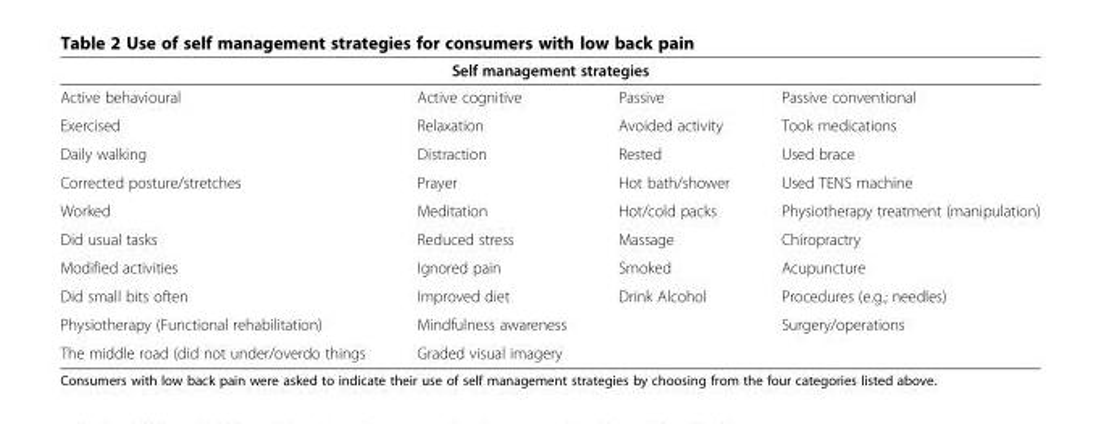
<table><thead><tr><td colspan="4">Self management strategies</td></tr><tr><td>Active behavioural</td><td>Active cognitive</td><td>Passive</td><td>Passive conventional</td></tr></thead><tbody><tr><td>Exercised</td><td>Relaxation</td><td>Avoided activity</td><td>Took medications</td></tr><tr><td>Daily walking</td><td>Distraction</td><td>Rested</td><td>Used brace</td></tr><tr><td>Corrected posture/stretches</td><td>Prayer</td><td>Hot bath/shower</td><td>Used TENS machine</td></tr><tr><td>Worked</td><td>Meditation</td><td>Hot/cold packs</td><td>Physiotherapy treatment (manipulation)</td></tr><tr><td>Did usual tasks</td><td>Reduced stress</td><td>Massage</td><td>Chiropractry</td></tr><tr><td>Modified activities</td><td>Ignored pain</td><td>Smoked</td><td>Acupuncture</td></tr><tr><td>Did small bits often</td><td>Improved diet</td><td>Drink Alcohol</td><td>Procedures (e.g.; needles)</td></tr><tr><td>Physiotherapy (Functional rehabilitation)</td><td>Mindfulness awareness</td><td></td><td>Surgery/operations</td></tr><tr><td>The middle road (did not under/overdo things</td><td>Graded visual imagery</td><td></td><td></td></tr></tbody></table>